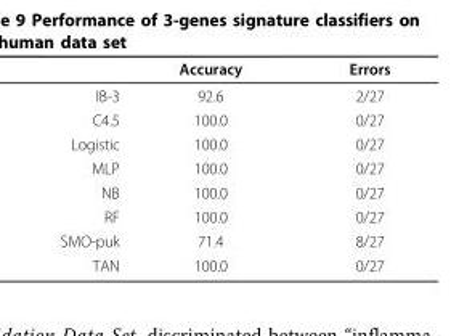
<table><thead><tr><td></td><td>Accuracy</td><td>Errors</td></tr></thead><tbody><tr><td>IB-3</td><td>92.6</td><td>2/27</td></tr><tr><td>C4.5</td><td>100.0</td><td>0/27</td></tr><tr><td>Logistic</td><td>100.0</td><td>0/27</td></tr><tr><td>MLP</td><td>100.0</td><td>0/27</td></tr><tr><td>NB</td><td>100.0</td><td>0/27</td></tr><tr><td>RF</td><td>100.0</td><td>0/27</td></tr><tr><td>SMO-puk</td><td>71.4</td><td>8/27</td></tr><tr><td>TAN</td><td>100.0</td><td>0/27</td></tr></tbody></table>